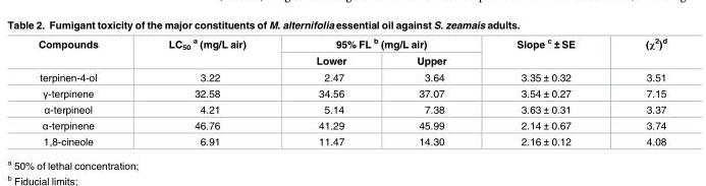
<table><thead><tr><td rowspan="2">Compounds</td><td rowspan="2">LC<sub>50</sub> <sup>a</sup> (mg/L air)</td><td colspan="2">95% FL <sup>b</sup> (mg/L air)</td><td rowspan="2">Slope <sup>c</sup> ± SE</td><td rowspan="2">(χ<sup>2</sup>)<sup>d</sup></td></tr><tr><td>Lower</td><td>Upper</td></tr></thead><tbody><tr><td>terpinen-4-ol</td><td>3.22</td><td>2.47</td><td>3.64</td><td>3.35 ± 0.32</td><td>3.51</td></tr><tr><td>γ-terpinene</td><td>32.58</td><td>34.56</td><td>37.07</td><td>3.54 ± 0.27</td><td>7.15</td></tr><tr><td>α-terpineol</td><td>4.21</td><td>5.14</td><td>7.38</td><td>3.63 ± 0.31</td><td>3.37</td></tr><tr><td>α-terpinene</td><td>46.76</td><td>41.29</td><td>45.99</td><td>2.14 ± 0.67</td><td>3.74</td></tr><tr><td>1,8-cineole</td><td>6.91</td><td>11.47</td><td>14.30</td><td>2.16 ± 0.12</td><td>4.08</td></tr></tbody></table>